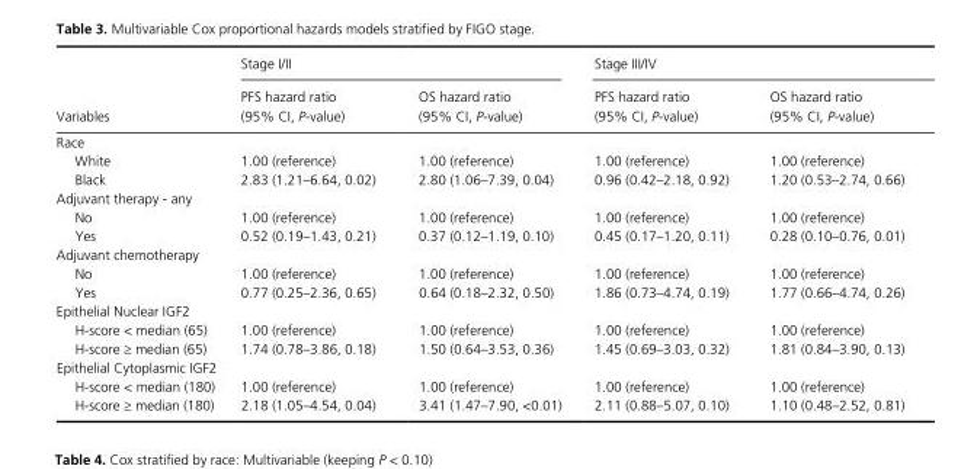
<table><thead><tr><td rowspan="2">Variables</td><td colspan="2">Stage I/II</td><td colspan="2">Stage III/IV</td></tr><tr><td>PFS hazard ratio (95% CI, P- value)</td><td>OS hazard ratio (95% CI, P- value)</td><td>PFS hazard ratio (95% CI, P- value)</td><td>OS hazard ratio (95% CI, P- value)</td></tr></thead><tbody><tr><td colspan="5">Race</td></tr><tr><td>White</td><td>1.00 (reference)</td><td>1.00 (reference)</td><td>1.00 (reference)</td><td>1.00 (reference)</td></tr><tr><td>Black</td><td>2.83 (1.21–6.64, 0.02)</td><td>2.80 (1.06–7.39, 0.04)</td><td>0.96 (0.42–2.18, 0.92)</td><td>1.20 (0.53–2.74, 0.66)</td></tr><tr><td colspan="5">Adjuvant therapy - any</td></tr><tr><td>No</td><td>1.00 (reference)</td><td>1.00 (reference)</td><td>1.00 (reference)</td><td>1.00 (reference)</td></tr><tr><td>Yes</td><td>0.52 (0.19–1.43, 0.21)</td><td>0.37 (0.12–1.19, 0.10)</td><td>0.45 (0.17–1.20, 0.11)</td><td>0.28 (0.10–0.76, 0.01)</td></tr><tr><td colspan="5">Adjuvant chemotherapy</td></tr><tr><td>No</td><td>1.00 (reference)</td><td>1.00 (reference)</td><td>1.00 (reference)</td><td>1.00 (reference)</td></tr><tr><td>Yes</td><td>0.77 (0.25–2.36, 0.65)</td><td>0.64 (0.18–2.32, 0.50)</td><td>1.86 (0.73–4.74, 0.19)</td><td>1.77 (0.66–4.74, 0.26)</td></tr><tr><td colspan="5">Epithelial Nuclear IGF2</td></tr><tr><td>H- score &lt; median (65)</td><td>1.00 (reference)</td><td>1.00 (reference)</td><td>1.00 (reference)</td><td>1.00 (reference)</td></tr><tr><td>H- score ≥ median (65)</td><td>1.74 (0.78–3.86, 0.18)</td><td>1.50 (0.64–3.53, 0.36)</td><td>1.45 (0.69–3.03, 0.32)</td><td>1.81 (0.84–3.90, 0.13)</td></tr><tr><td colspan="5">Epithelial Cytoplasmic IGF2</td></tr><tr><td>H- score &lt; median (180)</td><td>1.00 (reference)</td><td>1.00 (reference)</td><td>1.00 (reference)</td><td>1.00 (reference)</td></tr><tr><td>H- score ≥ median (180)</td><td>2.18 (1.05–4.54, 0.04)</td><td>3.41 (1.47–7.90, &lt;0.01)</td><td>2.11 (0.88–5.07, 0.10)</td><td>1.10 (0.48–2.52, 0.81)</td></tr></tbody></table>